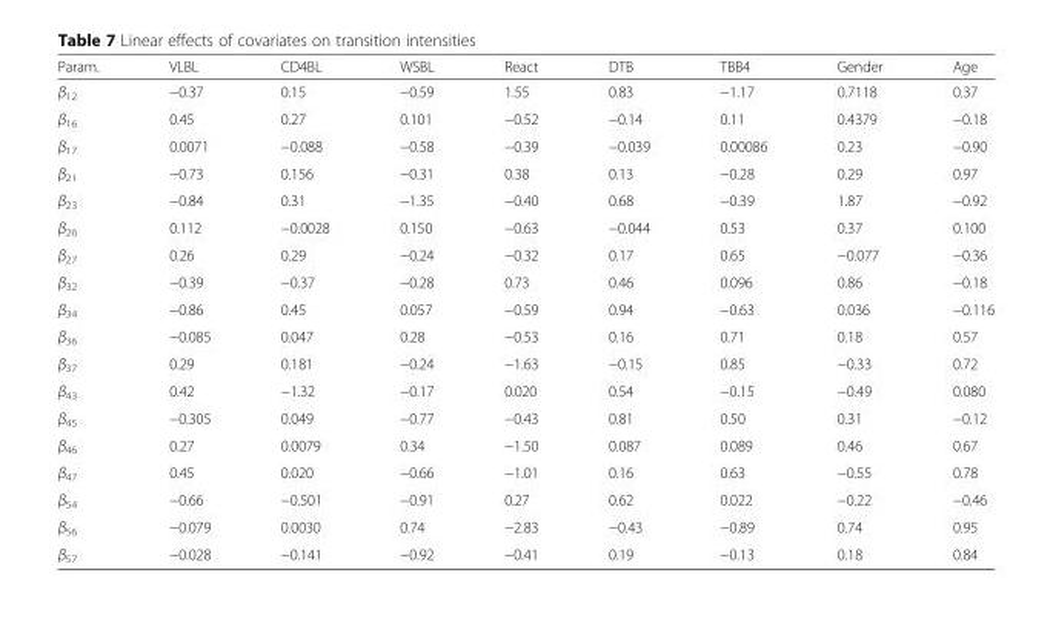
<table><thead><tr><td>Param.</td><td>VLBL</td><td>CD4BL</td><td>WSBL</td><td>React</td><td>DTB</td><td>TBB4</td><td>Gender</td><td>Age</td></tr></thead><tbody><tr><td>β<sub>12</sub></td><td>−0.37</td><td>0.15</td><td>−0.59</td><td>1.55</td><td>0.83</td><td>−1.17</td><td>0.7118</td><td>0.37</td></tr><tr><td>β<sub>16</sub></td><td>0.45</td><td>0.27</td><td>0.101</td><td>−0.52</td><td>−0.14</td><td>0.11</td><td>0.4379</td><td>−0.18</td></tr><tr><td>β<sub>17</sub></td><td>0.0071</td><td>−0.088</td><td>−0.58</td><td>−0.39</td><td>−0.039</td><td>0.00086</td><td>0.23</td><td>−0.90</td></tr><tr><td>β<sub>21</sub></td><td>−0.73</td><td>0.156</td><td>−0.31</td><td>0.38</td><td>0.13</td><td>−0.28</td><td>0.29</td><td>0.97</td></tr><tr><td>β<sub>23</sub></td><td>−0.84</td><td>0.31</td><td>−1.35</td><td>−0.40</td><td>0.68</td><td>−0.39</td><td>1.87</td><td>−0.92</td></tr><tr><td>β<sub>26</sub></td><td>0.112</td><td>−0.0028</td><td>0.150</td><td>−0.63</td><td>−0.044</td><td>0.53</td><td>0.37</td><td>0.100</td></tr><tr><td>β<sub>27</sub></td><td>0.26</td><td>0.29</td><td>−0.24</td><td>−0.32</td><td>0.17</td><td>0.65</td><td>−0.077</td><td>−0.36</td></tr><tr><td>β<sub>32</sub></td><td>−0.39</td><td>−0.37</td><td>−0.28</td><td>0.73</td><td>0.46</td><td>0.096</td><td>0.86</td><td>−0.18</td></tr><tr><td>β<sub>34</sub></td><td>−0.86</td><td>0.45</td><td>0.057</td><td>−0.59</td><td>0.94</td><td>−0.63</td><td>0.036</td><td>−0.116</td></tr><tr><td>β<sub>36</sub></td><td>−0.085</td><td>0.047</td><td>0.28</td><td>−0.53</td><td>0.16</td><td>0.71</td><td>0.18</td><td>0.57</td></tr><tr><td>β<sub>37</sub></td><td>0.29</td><td>0.181</td><td>−0.24</td><td>−1.63</td><td>−0.15</td><td>0.85</td><td>−0.33</td><td>0.72</td></tr><tr><td>β<sub>43</sub></td><td>0.42</td><td>−1.32</td><td>−0.17</td><td>0.020</td><td>0.54</td><td>−0.15</td><td>−0.49</td><td>0.080</td></tr><tr><td>β<sub>45</sub></td><td>−0.305</td><td>0.049</td><td>−0.77</td><td>−0.43</td><td>0.81</td><td>0.50</td><td>0.31</td><td>−0.12</td></tr><tr><td>β<sub>46</sub></td><td>0.27</td><td>0.0079</td><td>0.34</td><td>−1.50</td><td>0.087</td><td>0.089</td><td>0.46</td><td>0.67</td></tr><tr><td>β<sub>47</sub></td><td>0.45</td><td>0.020</td><td>−0.66</td><td>−1.01</td><td>0.16</td><td>0.63</td><td>−0.55</td><td>0.78</td></tr><tr><td>β<sub>54</sub></td><td>−0.66</td><td>−0.501</td><td>−0.91</td><td>0.27</td><td>0.62</td><td>0.022</td><td>−0.22</td><td>−0.46</td></tr><tr><td>β<sub>56</sub></td><td>−0.079</td><td>0.0030</td><td>0.74</td><td>−2.83</td><td>−0.43</td><td>−0.89</td><td>0.74</td><td>0.95</td></tr><tr><td>β<sub>57</sub></td><td>−0.028</td><td>−0.141</td><td>−0.92</td><td>−0.41</td><td>0.19</td><td>−0.13</td><td>0.18</td><td>0.84</td></tr></tbody></table>